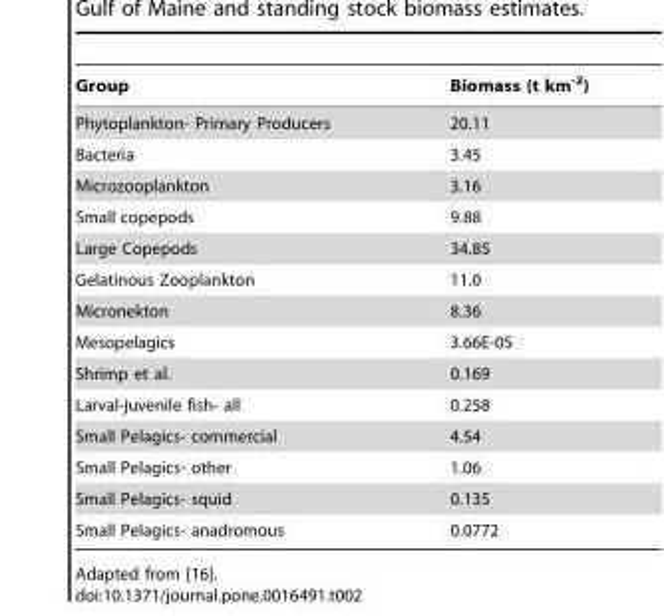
<table><thead><tr><td>Group</td><td>Biomass (t km<sup>-2</sup>)</td></tr></thead><tbody><tr><td>Phytoplankton- Primary Producers</td><td>20.11</td></tr><tr><td>Bacteria</td><td>3.45</td></tr><tr><td>Microzooplankton</td><td>3.16</td></tr><tr><td>Small copepods</td><td>9.88</td></tr><tr><td>Large Copepods</td><td>34.85</td></tr><tr><td>Gelatinous Zooplankton</td><td>11.0</td></tr><tr><td>Micronekton</td><td>8.36</td></tr><tr><td>Mesopelagics</td><td>3.66E-05</td></tr><tr><td>Shrimp et al.</td><td>0.169</td></tr><tr><td>Larval-juvenile fish- all</td><td>0.258</td></tr><tr><td>Small Pelagics- commercial</td><td>4.54</td></tr><tr><td>Small Pelagics- other</td><td>1.06</td></tr><tr><td>Small Pelagics- squid</td><td>0.135</td></tr><tr><td>Small Pelagics- anadromous</td><td>0.0772</td></tr></tbody></table>